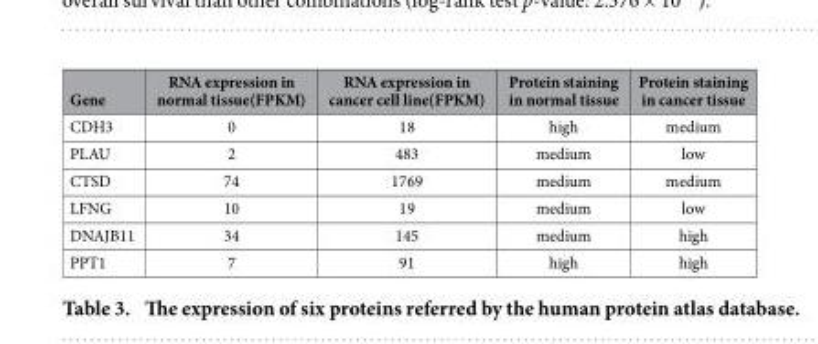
<table><thead><tr><td>Gene</td><td>RNA expression in normal tissue(FPKM)</td><td>RNA expression in cancer cell line(FPKM)</td><td>Protein staining in normal tissue</td><td>Protein staining in cancer tissue</td></tr></thead><tbody><tr><td>CDH3</td><td>0</td><td>18</td><td>high</td><td>medium</td></tr><tr><td>PLAU</td><td>2</td><td>483</td><td>medium</td><td>low</td></tr><tr><td>CTSD</td><td>74</td><td>1769</td><td>medium</td><td>medium</td></tr><tr><td>LFNG</td><td>10</td><td>19</td><td>medium</td><td>low</td></tr><tr><td>DNAJB11</td><td>34</td><td>145</td><td>medium</td><td>high</td></tr><tr><td>PPT1</td><td>7</td><td>91</td><td>high</td><td>high</td></tr></tbody></table>